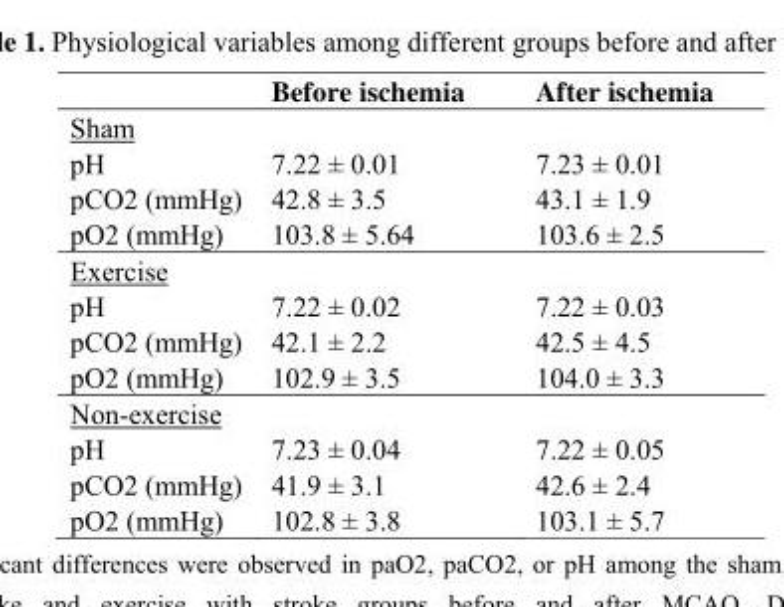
<table><thead><tr><td></td><td>Before ischemia</td><td>After ischemia</td></tr></thead><tbody><tr><td colspan="3">Sham</td></tr><tr><td>pH</td><td>7.22 ± 0.01</td><td>7.23 ± 0.01</td></tr><tr><td>pCO2 (mmHg)</td><td>42.8 ± 3.5</td><td>43.1 ± 1.9</td></tr><tr><td>pO2 (mmHg)</td><td>103.8 ± 5.64</td><td>103.6 ± 2.5</td></tr><tr><td colspan="3">Exercise</td></tr><tr><td>pH</td><td>7.22 ± 0.02</td><td>7.22 ± 0.03</td></tr><tr><td>pCO2 (mmHg)</td><td>42.1 ± 2.2</td><td>42.5 ± 4.5</td></tr><tr><td>pO2 (mmHg)</td><td>102.9 ± 3.5</td><td>104.0 ± 3.3</td></tr><tr><td colspan="3">Non-exercise</td></tr><tr><td>pH</td><td>7.23 ± 0.04</td><td>7.22 ± 0.05</td></tr><tr><td>pCO2 (mmHg)</td><td>41.9 ± 3.1</td><td>42.6 ± 2.4</td></tr><tr><td>pO2 (mmHg)</td><td>102.8 ± 3.8</td><td>103.1 ± 5.7</td></tr></tbody></table>